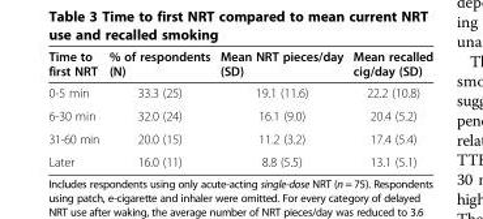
<table><thead><tr><td>Time to first NRT</td><td>% of respondents (N)</td><td>Mean NRT pieces/day (SD)</td><td>Mean recalled cig/day (SD)</td></tr></thead><tbody><tr><td>0-5 min</td><td>33.3 (25)</td><td>19.1 (11.6)</td><td>22.2 (10.8)</td></tr><tr><td>6-30 min</td><td>32.0 (24)</td><td>16.1 (9.0)</td><td>20.4 (5.2)</td></tr><tr><td>31-60 min</td><td>20.0 (15)</td><td>11.2 (3.2)</td><td>17.4 (5.4)</td></tr><tr><td>Later</td><td>16.0 (11)</td><td>8.8 (5.5)</td><td>13.1 (5.1)</td></tr></tbody></table>